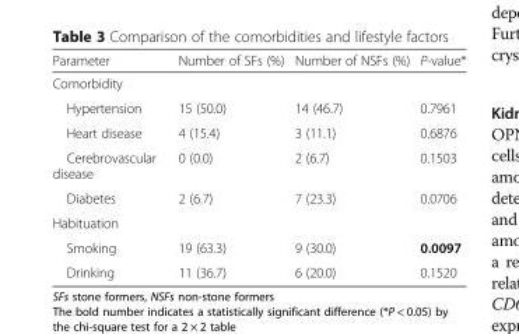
<table><thead><tr><td>Parameter</td><td>Number of SFs (%)</td><td>Number of NSFs (%)</td><td>P-value*</td></tr></thead><tbody><tr><td colspan="4">Comorbidity</td></tr><tr><td>Hypertension</td><td>15 (50.0)</td><td>14 (46.7)</td><td>0.7961</td></tr><tr><td>Heart disease</td><td>4 (15.4)</td><td>3 (11.1)</td><td>0.6876</td></tr><tr><td>Cerebrovascular disease</td><td>0 (0.0)</td><td>2 (6.7)</td><td>0.1503</td></tr><tr><td>Diabetes</td><td>2 (6.7)</td><td>7 (23.3)</td><td>0.0706</td></tr><tr><td colspan="4">Habituation</td></tr><tr><td>Smoking</td><td>19 (63.3)</td><td>9 (30.0)</td><td>0.0097</td></tr><tr><td>Drinking</td><td>11 (36.7)</td><td>6 (20.0)</td><td>0.1520</td></tr></tbody></table>